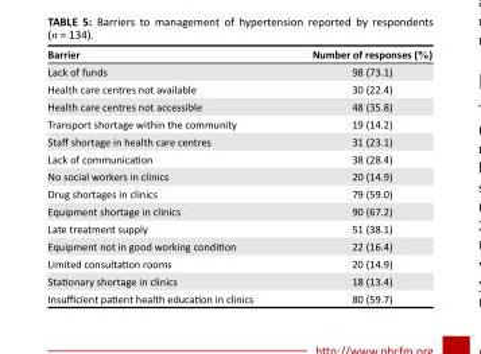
<table><thead><tr><td>Barrier</td><td>Number of responses (%)</td></tr></thead><tbody><tr><td>Lack of funds</td><td>98 (73.1)</td></tr><tr><td>Health care centres not available</td><td>30 (22.4)</td></tr><tr><td>Health care centres not accessible</td><td>48 (35.8)</td></tr><tr><td>Transport shortage within the community</td><td>19 (14.2)</td></tr><tr><td>Staff shortage in health care centres</td><td>31 (23.1)</td></tr><tr><td>Lack of communication</td><td>38 (28.4)</td></tr><tr><td>No social workers in clinics</td><td>20 (14.9)</td></tr><tr><td>Drug shortages in clinics</td><td>79 (59.0)</td></tr><tr><td>Equipment shortage in clinics</td><td>90 (67.2)</td></tr><tr><td>Late treatment supply</td><td>51 (38.1)</td></tr><tr><td>Equipment not in good working condition</td><td>22 (16.4)</td></tr><tr><td>Limited consultation rooms</td><td>20 (14.9)</td></tr><tr><td>Stationary shortage in clinics</td><td>18 (13.4)</td></tr><tr><td>Insufficient patient health education in clinics</td><td>80 (59.7)</td></tr></tbody></table>